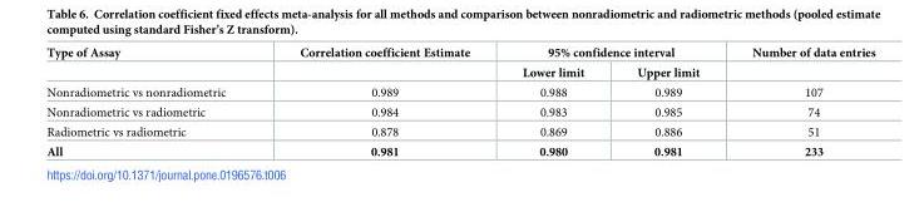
<table><thead><tr><td rowspan="2">Type of Assay</td><td rowspan="2">Correlation coefficient Estimate</td><td colspan="2">95% confidence interval</td><td rowspan="2">Number of data entries</td></tr><tr><td>Lower limit</td><td>Upper limit</td></tr></thead><tbody><tr><td>Nonradiometric vs nonradiometric</td><td>0.989</td><td>0.988</td><td>0.989</td><td>107</td></tr><tr><td>Nonradiometric vs radiometric</td><td>0.984</td><td>0.983</td><td>0.985</td><td>74</td></tr><tr><td>Radiometric vs radiometric</td><td>0.878</td><td>0.869</td><td>0.886</td><td>51</td></tr><tr><td>All</td><td>0.981</td><td>0.980</td><td>0.981</td><td>233</td></tr></tbody></table>